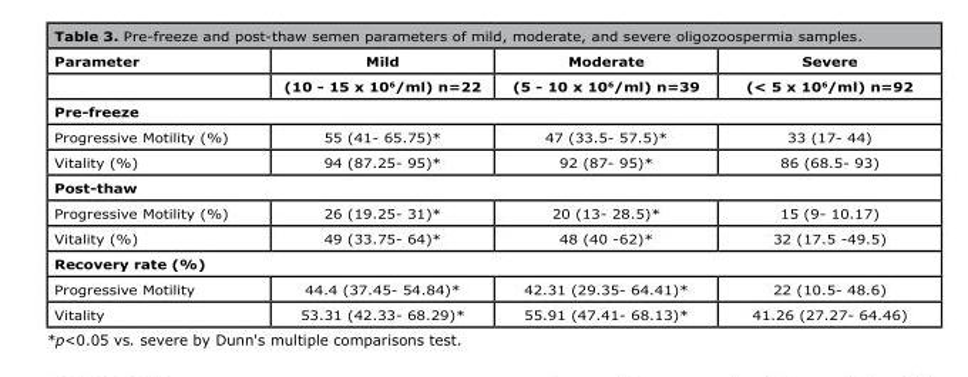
<table><thead><tr><td rowspan="2">Parameter</td><td rowspan="2">Mild (10 - 15 x 10<sup>6</sup>/ml) n=22</td><td rowspan="2">Moderate (5 - 10 x 10<sup>6</sup>/ml) n=39</td><td rowspan="2">Severe (&lt; 5 x 106/ml) n=92</td></tr><tr></tr></thead><tbody><tr><td colspan="4">Pre-freeze</td></tr><tr><td>Progressive Motility (%)</td><td>55 (41- 65.75)*</td><td>47 (33.5- 57.5)*</td><td>33 (17- 44)</td></tr><tr><td>Vitality (%)</td><td>94 (87.25- 95)*</td><td>92 (87- 95)*</td><td>86 (68.5- 93)</td></tr><tr><td colspan="4">Post-thaw</td></tr><tr><td>Progressive Motility (%)</td><td>26 (19.25- 31)*</td><td>20 (13- 28.5)*</td><td>15 (9- 10.17)</td></tr><tr><td>Vitality (%)</td><td>49 (33.75- 64)*</td><td>48 (40 -62)*</td><td>32 (17.5 -49.5)</td></tr><tr><td colspan="4">Recovery rate (%)</td></tr><tr><td>Progressive Motility</td><td>44.4 (37.45- 54.84)*</td><td>42.31 (29.35- 64.41)*</td><td>22 (10.5- 48.6)</td></tr><tr><td>Vitality</td><td>53.31 (42.33- 68.29)*</td><td>55.91 (47.41- 68.13)*</td><td>41.26 (27.27- 64.46)</td></tr></tbody></table>